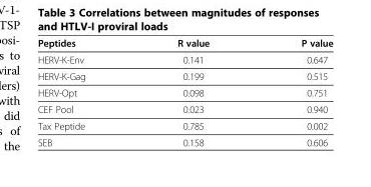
<table><thead><tr><td>Peptides</td><td>R value</td><td>P value</td></tr></thead><tbody><tr><td>HERV-K-Env</td><td>0.141</td><td>0.647</td></tr><tr><td>HERV-K-Gag</td><td>0.199</td><td>0.515</td></tr><tr><td>HERV-Opt</td><td>0.098</td><td>0.751</td></tr><tr><td>CEF Pool</td><td>0.023</td><td>0.940</td></tr><tr><td>Tax Peptide</td><td>0.785</td><td>0.002</td></tr><tr><td>SEB</td><td>0.158</td><td>0.606</td></tr></tbody></table>